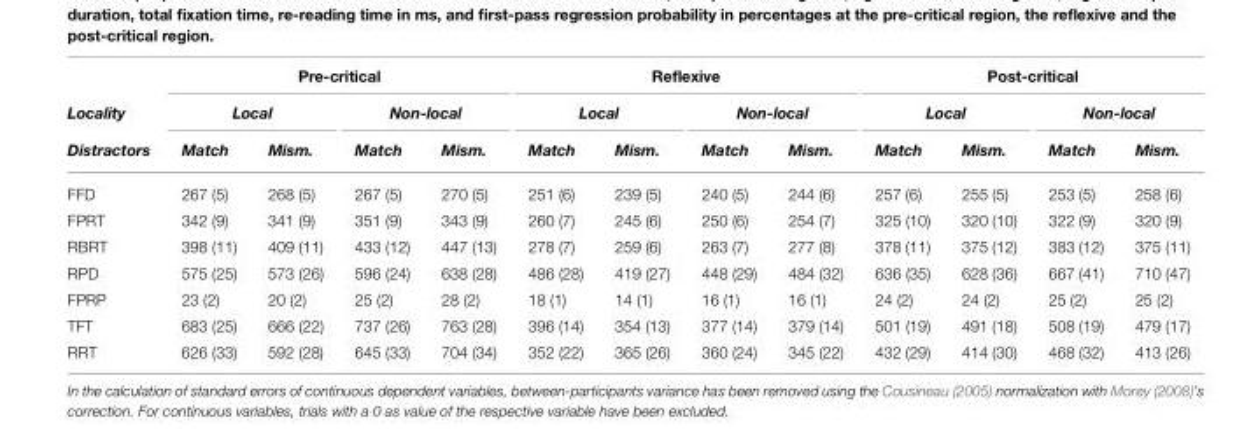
<table><thead><tr><td rowspan="3">Locality Distractors</td><td colspan="4">Pre-critical</td><td colspan="4">Reflexive</td><td colspan="4">Post-critical</td></tr><tr><td colspan="2">Local</td><td colspan="2">Non-local</td><td colspan="2">Local</td><td colspan="2">Non-local</td><td colspan="2">Local</td><td colspan="2">Non-local</td></tr><tr><td>Match</td><td>Mism.</td><td>Match</td><td>Mism.</td><td>Match</td><td>Mism.</td><td>Match</td><td>Mism.</td><td>Match</td><td>Mism.</td><td>Match</td><td>Mism.</td></tr></thead><tbody><tr><td>FFD</td><td>267 (5)</td><td>268 (5)</td><td>267 (5)</td><td>270 (5)</td><td>251 (6)</td><td>239 (5)</td><td>240 (5)</td><td>244 (6)</td><td>257 (6)</td><td>255 (5)</td><td>253 (5)</td><td>258 (6)</td></tr><tr><td>FPRT</td><td>342 (9)</td><td>341 (9)</td><td>351 (9)</td><td>343 (9)</td><td>260 (7)</td><td>245 (6)</td><td>250 (6)</td><td>254 (7)</td><td>325 (10)</td><td>320 (10)</td><td>322 (9)</td><td>320 (9)</td></tr><tr><td>RBRT</td><td>398 (11)</td><td>409 (11)</td><td>433 (12)</td><td>447 (13)</td><td>278 (7)</td><td>259 (6)</td><td>263 (7)</td><td>277 (8)</td><td>378 (11)</td><td>375 (12)</td><td>383 (12)</td><td>375 (11)</td></tr><tr><td>RPD</td><td>575 (25)</td><td>573 (26)</td><td>596 (24)</td><td>638 (28)</td><td>486 (28)</td><td>419 (27)</td><td>448 (29)</td><td>484 (32)</td><td>636 (35)</td><td>628 (36)</td><td>667 (41)</td><td>710 (47)</td></tr><tr><td>FPRP</td><td>23 (2)</td><td>20 (2)</td><td>25 (2)</td><td>28 (2)</td><td>18 (1)</td><td>14 (1)</td><td>16 (1)</td><td>16 (1)</td><td>24 (2)</td><td>24 (2)</td><td>25 (2)</td><td>25 (2)</td></tr><tr><td>TFT</td><td>683 (25)</td><td>666 (22)</td><td>737 (26)</td><td>763 (28)</td><td>396 (14)</td><td>354 (13)</td><td>377 (14)</td><td>379 (14)</td><td>501 (19)</td><td>491 (18)</td><td>508 (19)</td><td>479 (17)</td></tr><tr><td>RRT</td><td>626 (33)</td><td>592 (28)</td><td>645 (33)</td><td>704 (34)</td><td>352 (22)</td><td>365 (26)</td><td>360 (24)</td><td>345 (22)</td><td>432 (29)</td><td>414 (30)</td><td>468 (32)</td><td>413 (26)</td></tr></tbody></table>